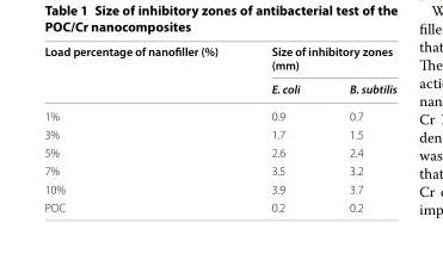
<table><thead><tr><td rowspan="2">Load percentage of nanofiller (%)</td><td colspan="2">Size of inhibitory zones (mm)</td></tr><tr><td>E. coli</td><td>B. subtilis</td></tr></thead><tbody><tr><td>1%</td><td>0.9</td><td>0.7</td></tr><tr><td>3%</td><td>1.7</td><td>1.5</td></tr><tr><td>5%</td><td>2.6</td><td>2.4</td></tr><tr><td>7%</td><td>3.5</td><td>3.2</td></tr><tr><td>10%</td><td>3.9</td><td>3.7</td></tr><tr><td>POC</td><td>0.2</td><td>0.2</td></tr></tbody></table>